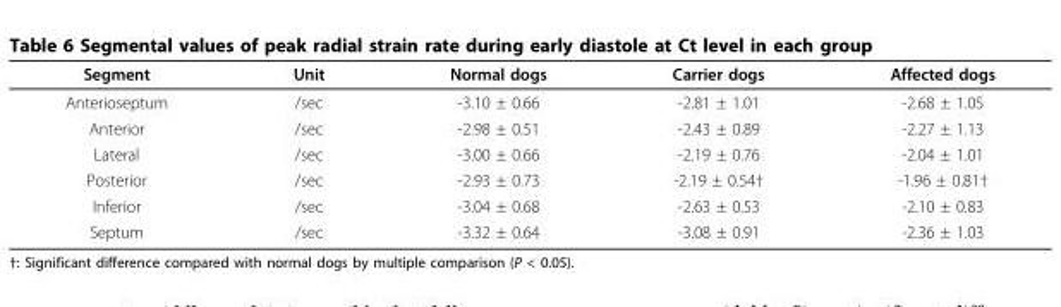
<table><thead><tr><td>Segment</td><td>Unit</td><td>Normal dogs</td><td>Carrier dogs</td><td>Affected dogs</td></tr></thead><tbody><tr><td>Anterioseptum</td><td>/sec</td><td>-3.10 ± 0.66</td><td>-2.81 ± 1.01</td><td>-2.68 ± 1.05</td></tr><tr><td>Anterior</td><td>/sec</td><td>-2.98 ± 0.51</td><td>-2.43 ± 0.89</td><td>-2.27 ± 1.13</td></tr><tr><td>Lateral</td><td>/sec</td><td>-3.00 ± 0.66</td><td>-2.19 ± 0.76</td><td>-2.04 ± 1.01</td></tr><tr><td>Posterior</td><td>/sec</td><td>-2.93 ± 0.73</td><td>-2.19 ± 0.54†</td><td>-1.96 ± 0.81†</td></tr><tr><td>Inferior</td><td>/sec</td><td>-3.04 ± 0.68</td><td>-2.63 ± 0.53</td><td>-2.10 ± 0.83</td></tr><tr><td>Septum</td><td>/sec</td><td>-3.32 ± 0.64</td><td>-3.08 ± 0.91</td><td>-2.36 ± 1.03</td></tr></tbody></table>